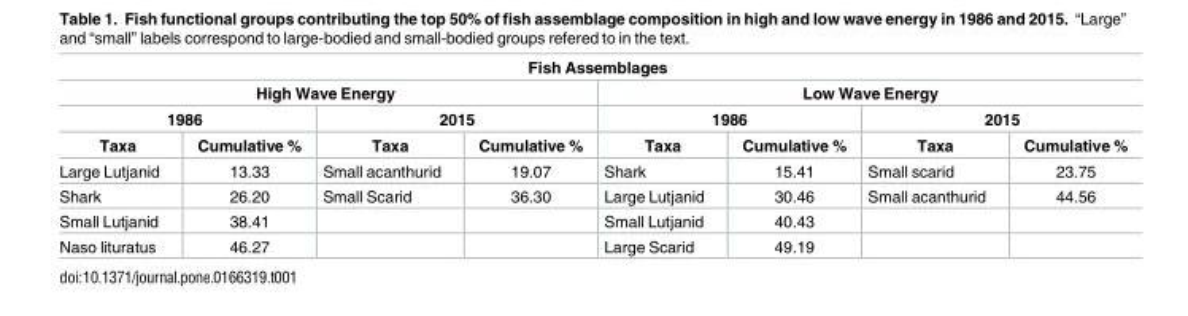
<table><thead><tr><td colspan="8">Fish Assemblages</td></tr><tr><td colspan="4">High Wave Energy</td><td colspan="4">Low Wave Energy</td></tr><tr><td colspan="2">1986</td><td colspan="2">2015</td><td colspan="2">1986</td><td colspan="2">2015</td></tr><tr><td>Taxa</td><td>Cumulative %</td><td>Taxa</td><td>Cumulative %</td><td>Taxa</td><td>Cumulative %</td><td>Taxa</td><td>Cumulative %</td></tr></thead><tbody><tr><td>Large Lutjanid</td><td>13.33</td><td>Small acanthurid</td><td>19.07</td><td>Shark</td><td>15.41</td><td>Small scarid</td><td>23.75</td></tr><tr><td>Shark</td><td>26.20</td><td>Small Scarid</td><td>36.30</td><td>Large Lutjanid</td><td>30.46</td><td>Small acanthurid</td><td>44.56</td></tr><tr><td>Small Lutjanid</td><td>38.41</td><td></td><td></td><td>Small Lutjanid</td><td>40.43</td><td></td><td></td></tr><tr><td>Naso lituratus</td><td>46.27</td><td></td><td></td><td>Large Scarid</td><td>49.19</td><td></td><td></td></tr></tbody></table>